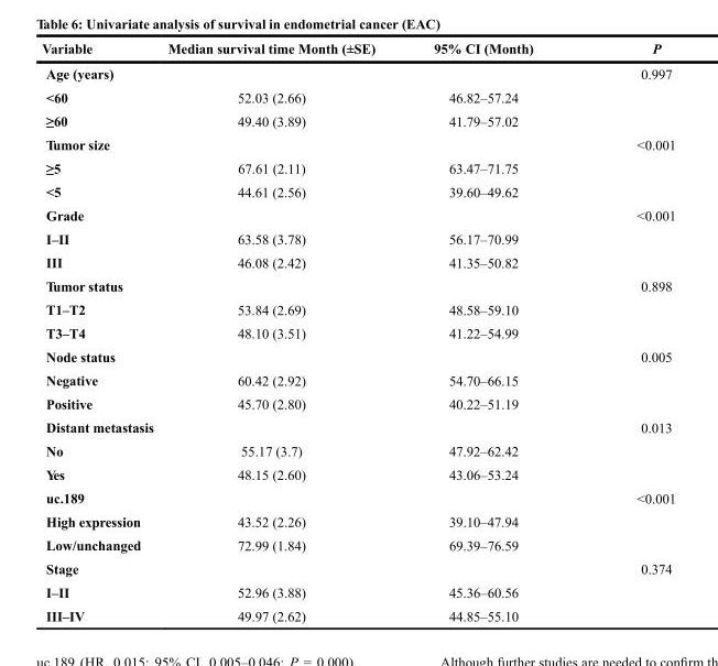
<table><thead><tr><td>Variable</td><td>Median survival time Month (±SE)</td><td>95% CI (Month)</td><td>P</td></tr></thead><tbody><tr><td>Age (years)</td><td></td><td></td><td>0.997</td></tr><tr><td>&lt;60</td><td>52.03 (2.66)</td><td>46.82–57.24</td><td></td></tr><tr><td>≥60</td><td>49.40 (3.89)</td><td>41.79–57.02</td><td></td></tr><tr><td>Tumor size</td><td></td><td></td><td>&lt;0.001</td></tr><tr><td>≥5</td><td>67.61 (2.11)</td><td>63.47–71.75</td><td></td></tr><tr><td>&lt;5</td><td>44.61 (2.56)</td><td>39.60–49.62</td><td></td></tr><tr><td>Grade</td><td></td><td></td><td>&lt;0.001</td></tr><tr><td>I–II</td><td>63.58 (3.78)</td><td>56.17–70.99</td><td></td></tr><tr><td>III</td><td>46.08 (2.42)</td><td>41.35–50.82</td><td></td></tr><tr><td>Tumor status</td><td></td><td></td><td>0.898</td></tr><tr><td>T1–T2</td><td>53.84 (2.69)</td><td>48.58–59.10</td><td></td></tr><tr><td>T3–T4</td><td>48.10 (3.51)</td><td>41.22–54.99</td><td></td></tr><tr><td>Node status</td><td></td><td></td><td>0.005</td></tr><tr><td>Negative</td><td>60.42 (2.92)</td><td>54.70–66.15</td><td></td></tr><tr><td>Positive</td><td>45.70 (2.80)</td><td>40.22–51.19</td><td></td></tr><tr><td>Distant metastasis</td><td></td><td></td><td>0.013</td></tr><tr><td>No</td><td>55.17 (3.7)</td><td>47.92–62.42</td><td></td></tr><tr><td>Yes</td><td>48.15 (2.60)</td><td>43.06–53.24</td><td></td></tr><tr><td>uc.189</td><td></td><td></td><td>&lt;0.001</td></tr><tr><td>High expression</td><td>43.52 (2.26)</td><td>39.10–47.94</td><td></td></tr><tr><td>Low/unchanged</td><td>72.99 (1.84)</td><td>69.39–76.59</td><td></td></tr><tr><td>Stage</td><td></td><td></td><td>0.374</td></tr><tr><td>I–II</td><td>52.96 (3.88)</td><td>45.36–60.56</td><td></td></tr><tr><td>III–IV</td><td>49.97 (2.62)</td><td>44.85–55.10</td><td></td></tr></tbody></table>